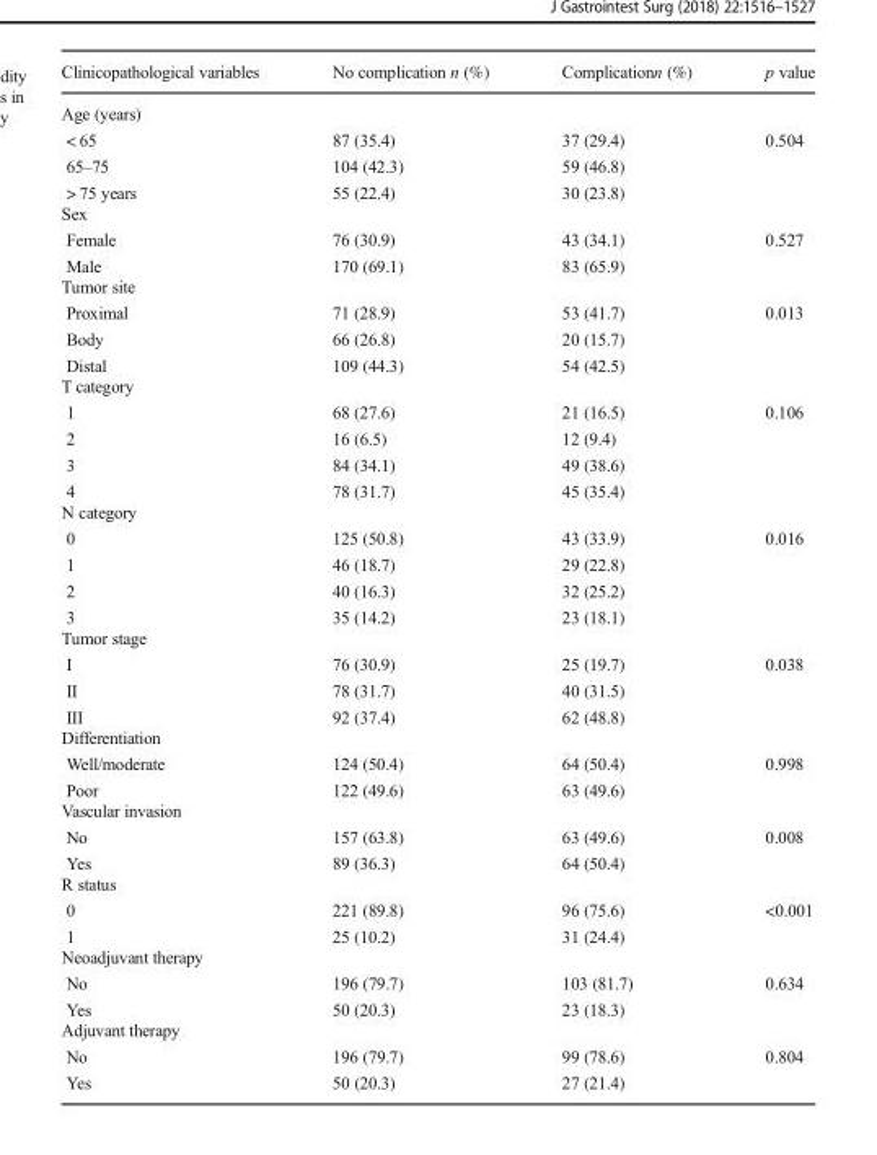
<table><thead><tr><td>Clinicopathological variables</td><td>No complication n (%)</td><td>Complicationn (%)</td><td>p value</td></tr></thead><tbody><tr><td colspan="4">Age (years)</td></tr><tr><td>&lt; 65 65–75 &gt; 75 years</td><td>87 (35.4) 104 (42.3) 55 (22.4)</td><td>37 (29.4) 59 (46.8) 30 (23.8)</td><td>0.504</td></tr><tr><td colspan="4">Sex</td></tr><tr><td>Female Male</td><td>76 (30.9) 170 (69.1)</td><td>43 (34.1) 83 (65.9)</td><td>0.527</td></tr><tr><td colspan="4">Tumor site</td></tr><tr><td>Proximal Body Distal</td><td>71 (28.9) 66 (26.8) 109 (44.3)</td><td>53 (41.7) 20 (15.7) 54 (42.5)</td><td>0.013</td></tr><tr><td colspan="4">T category</td></tr><tr><td>1 2 3 4</td><td>68 (27.6) 16 (6.5) 84 (34.1) 78 (31.7)</td><td>21 (16.5) 12 (9.4) 49 (38.6) 45 (35.4)</td><td>0.106</td></tr><tr><td colspan="4">N category</td></tr><tr><td>0 1 2 3</td><td>125 (50.8) 46 (18.7) 40 (16.3) 35 (14.2)</td><td>43 (33.9) 29 (22.8) 32 (25.2) 23 (18.1)</td><td>0.016</td></tr><tr><td colspan="4">Tumor stage</td></tr><tr><td>I II III</td><td>76 (30.9) 78 (31.7) 92 (37.4)</td><td>25 (19.7) 40 (31.5) 62 (48.8)</td><td>0.038</td></tr><tr><td colspan="4">Differentiation</td></tr><tr><td>Well/moderate Poor</td><td>124 (50.4) 122 (49.6)</td><td>64 (50.4) 63 (49.6)</td><td>0.998</td></tr><tr><td colspan="4">Vascular invasion</td></tr><tr><td>No Yes</td><td>157 (63.8) 89 (36.3)</td><td>63 (49.6) 64 (50.4)</td><td>0.008</td></tr><tr><td colspan="4">R status</td></tr><tr><td>0 1</td><td>221 (89.8) 25 (10.2)</td><td>96 (75.6) 31 (24.4)</td><td>&lt;0.001</td></tr><tr><td colspan="4">Neoadjuvant therapy</td></tr><tr><td>No Yes</td><td>196 (79.7) 50 (20.3)</td><td>103 (81.7) 23 (18.3)</td><td>0.634</td></tr><tr><td colspan="4">Adjuvant therapy</td></tr><tr><td>No Yes</td><td>196 (79.7) 50 (20.3)</td><td>99 (78.6) 27 (21.4)</td><td>0.804</td></tr></tbody></table>